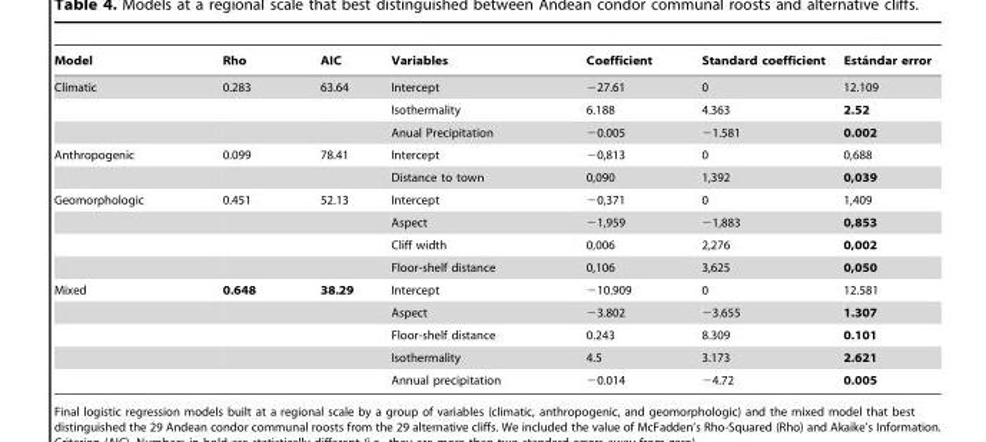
<table><thead><tr><td>Model</td><td>Rho</td><td>AIC</td><td>Variables</td><td>Coefficient</td><td>Standard coefficient</td><td>Esta´ndar error</td></tr></thead><tbody><tr><td rowspan="3">Climatic</td><td>0.283</td><td>63.64</td><td>Intercept</td><td>−27.61</td><td>0</td><td>12.109</td></tr><tr><td></td><td></td><td>Isothermality</td><td>6.188</td><td>4.363</td><td>2.52</td></tr><tr><td></td><td></td><td>Anual Precipitation</td><td>−0.005</td><td>−1.581</td><td>0.002</td></tr><tr><td rowspan="2">Anthropogenic</td><td>0.099</td><td>78.41</td><td>Intercept</td><td>−0,813</td><td>0</td><td>0,688</td></tr><tr><td></td><td></td><td>Distance to town</td><td>0,090</td><td>1,392</td><td>0,039</td></tr><tr><td rowspan="4">Geomorphologic</td><td>0.451</td><td>52.13</td><td>Intercept</td><td>−0,371</td><td>0</td><td>1,409</td></tr><tr><td></td><td></td><td>Aspect</td><td>−1,959</td><td>−1,883</td><td>0,853</td></tr><tr><td></td><td></td><td>Cliff width</td><td>0,006</td><td>2,276</td><td>0,002</td></tr><tr><td></td><td></td><td>Floor-shelf distance</td><td>0,106</td><td>3,625</td><td>0,050</td></tr><tr><td rowspan="5">Mixed</td><td>0.648</td><td>38.29</td><td>Intercept</td><td>−10.909</td><td>0</td><td>12.581</td></tr><tr><td></td><td></td><td>Aspect</td><td>−3.802</td><td>−3.655</td><td>1.307</td></tr><tr><td></td><td></td><td>Floor-shelf distance</td><td>0.243</td><td>8.309</td><td>0.101</td></tr><tr><td></td><td></td><td>Isothermality</td><td>4.5</td><td>3.173</td><td>2.621</td></tr><tr><td></td><td></td><td>Annual precipitation</td><td>−0.014</td><td>−4.72</td><td>0.005</td></tr></tbody></table>